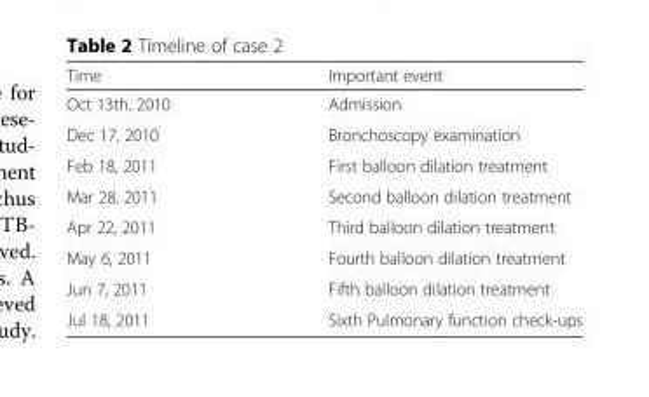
<table><thead><tr><td>Time</td><td>Important event</td></tr></thead><tbody><tr><td>Oct 13th, 2010</td><td>Admission</td></tr><tr><td>Dec 17, 2010</td><td>Bronchoscopy examination</td></tr><tr><td>Feb 18, 2011</td><td>First balloon dilation treatment</td></tr><tr><td>Mar 28, 2011</td><td>Second balloon dilation treatment</td></tr><tr><td>Apr 22, 2011</td><td>Third balloon dilation treatment</td></tr><tr><td>May 6, 2011</td><td>Fourth balloon dilation treatment</td></tr><tr><td>Jun 7, 2011</td><td>Fifth balloon dilation treatment</td></tr><tr><td>Jul 18, 2011</td><td>Sixth Pulmonary function check-ups</td></tr></tbody></table>